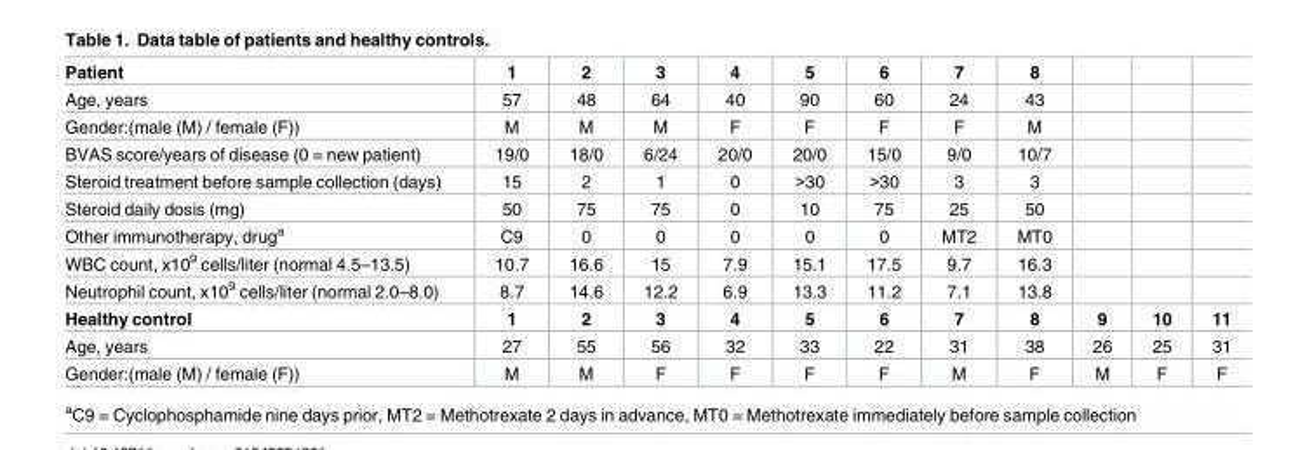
<table><tbody><tr><td>Patient</td><td>1</td><td>2</td><td>3</td><td>4</td><td>5</td><td>6</td><td>7</td><td>8</td><td></td><td></td><td></td></tr><tr><td>Age, years</td><td>57</td><td>48</td><td>64</td><td>40</td><td>90</td><td>60</td><td>24</td><td>43</td><td></td><td></td><td></td></tr><tr><td>Gender:(male (M) / female (F))</td><td>M</td><td>M</td><td>M</td><td>F</td><td>F</td><td>F</td><td>F</td><td>M</td><td></td><td></td><td></td></tr><tr><td>BVAS score/years of disease (0 = new patient)</td><td>19/0</td><td>18/0</td><td>6/24</td><td>20/0</td><td>20/0</td><td>15/0</td><td>9/0</td><td>10/7</td><td></td><td></td><td></td></tr><tr><td>Steroid treatment before sample collection (days)</td><td>15</td><td>2</td><td>1</td><td>0</td><td>&gt;30</td><td>&gt;30</td><td>3</td><td>3</td><td></td><td></td><td></td></tr><tr><td>Steroid daily dosis (mg)</td><td>50</td><td>75</td><td>75</td><td>0</td><td>10</td><td>75</td><td>25</td><td>50</td><td></td><td></td><td></td></tr><tr><td>Other immunotherapy, drug<sup>a</sup></td><td>C9</td><td>0</td><td>0</td><td>0</td><td>0</td><td>0</td><td>MT2</td><td>MT0</td><td></td><td></td><td></td></tr><tr><td>WBC count, x10<sup>9</sup> cells/liter (normal 4.5–13.5)</td><td>10.7</td><td>16.6</td><td>15</td><td>7.9</td><td>15.1</td><td>17.5</td><td>9.7</td><td>16.3</td><td></td><td></td><td></td></tr><tr><td>Neutrophil count, x10<sup>9</sup> cells/liter (normal 2.0–8.0)</td><td>8.7</td><td>14.6</td><td>12.2</td><td>6.9</td><td>13.3</td><td>11.2</td><td>7.1</td><td>13.8</td><td></td><td></td><td></td></tr><tr><td>Healthy control</td><td>1</td><td>2</td><td>3</td><td>4</td><td>5</td><td>6</td><td>7</td><td>8</td><td>9</td><td>10</td><td>11</td></tr><tr><td>Age, years</td><td>27</td><td>55</td><td>56</td><td>32</td><td>33</td><td>22</td><td>31</td><td>38</td><td>26</td><td>25</td><td>31</td></tr><tr><td>Gender:(male (M) / female (F))</td><td>M</td><td>M</td><td>F</td><td>F</td><td>F</td><td>F</td><td>M</td><td>F</td><td>M</td><td>F</td><td>F</td></tr></tbody></table>